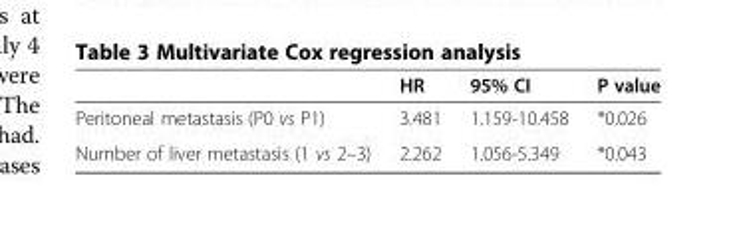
<table><thead><tr><td></td><td>HR</td><td>95% CI</td><td>P value</td></tr></thead><tbody><tr><td>Peritoneal metastasis (P0 vs P1)</td><td>3.481</td><td>1.159-10.458</td><td>*0.026</td></tr><tr><td>Number of liver metastasis (1 vs 2–3)</td><td>2.262</td><td>1.056-5.349</td><td>*0.043</td></tr></tbody></table>